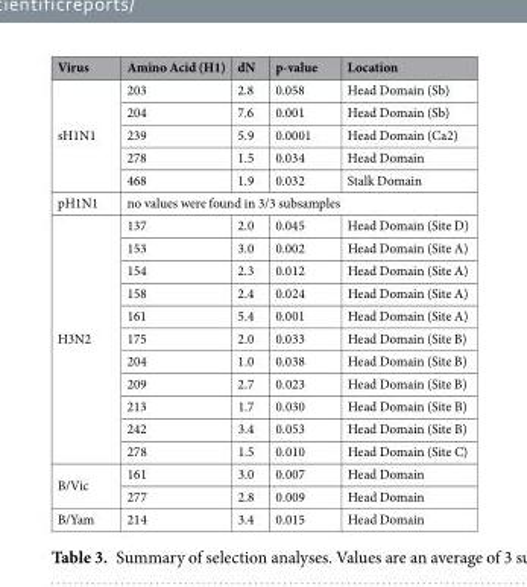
<table><thead><tr><td>Virus</td><td>Amino Acid (H1)</td><td>dN</td><td>p-value</td><td>Location</td></tr></thead><tbody><tr><td rowspan="5">sH1N1</td><td>203</td><td>2.8</td><td>0.058</td><td>Head Domain (Sb)</td></tr><tr><td>204</td><td>7.6</td><td>0.001</td><td>Head Domain (Sb)</td></tr><tr><td>239</td><td>5.9</td><td>0.0001</td><td>Head Domain (Ca2)</td></tr><tr><td>278</td><td>1.5</td><td>0.034</td><td>Head Domain</td></tr><tr><td>468</td><td>1.9</td><td>0.032</td><td>Stalk Domain</td></tr><tr><td>pH1N1</td><td colspan="4">no values were found in 3/3 subsamples</td></tr><tr><td rowspan="11">H3N2</td><td>137</td><td>2.0</td><td>0.045</td><td>Head Domain (Site D)</td></tr><tr><td>153</td><td>3.0</td><td>0.002</td><td>Head Domain (Site A)</td></tr><tr><td>154</td><td>2.3</td><td>0.012</td><td>Head Domain (Site A)</td></tr><tr><td>158</td><td>2.4</td><td>0.024</td><td>Head Domain (Site A)</td></tr><tr><td>161</td><td>5.4</td><td>0.001</td><td>Head Domain (Site A)</td></tr><tr><td>175</td><td>2.0</td><td>0.033</td><td>Head Domain (Site B)</td></tr><tr><td>204</td><td>1.0</td><td>0.038</td><td>Head Domain (Site B)</td></tr><tr><td>209</td><td>2.7</td><td>0.023</td><td>Head Domain (Site B)</td></tr><tr><td>213</td><td>1.7</td><td>0.030</td><td>Head Domain (Site B)</td></tr><tr><td>242</td><td>3.4</td><td>0.053</td><td>Head Domain (Site B)</td></tr><tr><td>278</td><td>1.5</td><td>0.010</td><td>Head Domain (Site C)</td></tr><tr><td rowspan="2">B/Vic</td><td>161</td><td>3.0</td><td>0.007</td><td>Head Domain</td></tr><tr><td>277</td><td>2.8</td><td>0.009</td><td>Head Domain</td></tr><tr><td>B/Yam</td><td>214</td><td>3.4</td><td>0.015</td><td>Head Domain</td></tr></tbody></table>